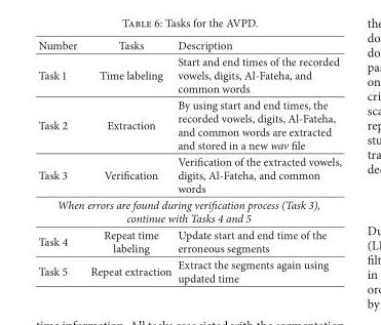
<table><thead><tr><td>Number</td><td>Tasks</td><td>Description</td></tr></thead><tbody><tr><td>Task 1</td><td>Time labeling</td><td>Start and end times of the recorded vowels, digits, Al-Fateha, and common words</td></tr><tr><td>Task 2</td><td>Extraction</td><td>By using start and end times, the recorded vowels, digits, Al-Fateha, and common words are extracted and stored in a new wav file</td></tr><tr><td>Task 3</td><td>Verification</td><td>Verification of the extracted vowels, digits, Al-Fateha, and common words</td></tr><tr><td colspan="3">When errors are found during verification process (Task 3), continue with Tasks 4 and 5</td></tr><tr><td>Task 4</td><td>Repeat time labeling</td><td>Update start and end time of the erroneous segments</td></tr><tr><td>Task 5</td><td>Repeat extraction</td><td>Extract the segments again using updated time</td></tr></tbody></table>